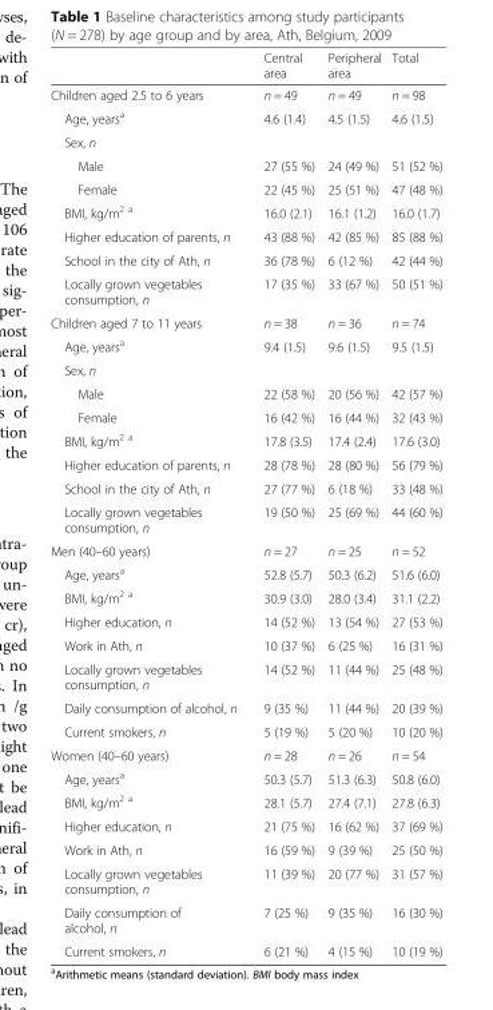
<table><thead><tr><td></td><td>Central area</td><td>Peripheral area</td><td>Total</td></tr></thead><tbody><tr><td>Children aged 2.5 to 6 years</td><td>n = 49</td><td>n = 49</td><td>n = 98</td></tr><tr><td>Age, years<sup>a</sup></td><td>4.6 (1.4)</td><td>4.5 (1.5)</td><td>4.6 (1.5)</td></tr><tr><td colspan="4">Sex, n</td></tr><tr><td>Male</td><td>27 (55 %)</td><td>24 (49 %)</td><td>51 (52 %)</td></tr><tr><td>Female</td><td>22 (45 %)</td><td>25 (51 %)</td><td>47 (48 %)</td></tr><tr><td>BMI, kg/m<sup>2 a</sup></td><td>16.0 (2.1)</td><td>16.1 (1.2)</td><td>16.0 (1.7)</td></tr><tr><td>Higher education of parents, n</td><td>43 (88 %)</td><td>42 (85 %)</td><td>85 (88 %)</td></tr><tr><td>School in the city of Ath, n</td><td>36 (78 %)</td><td>6 (12 %)</td><td>42 (44 %)</td></tr><tr><td>Locally grown vegetables consumption, n</td><td>17 (35 %)</td><td>33 (67 %)</td><td>50 (51 %)</td></tr><tr><td>Children aged 7 to 11 years</td><td>n = 38</td><td>n = 36</td><td>n = 74</td></tr><tr><td>Age, years<sup>a</sup></td><td>9.4 (1.5)</td><td>9.6 (1.5)</td><td>9.5 (1.5)</td></tr><tr><td colspan="4">Sex, n</td></tr><tr><td>Male</td><td>22 (58 %)</td><td>20 (56 %)</td><td>42 (57 %)</td></tr><tr><td>Female</td><td>16 (42 %)</td><td>16 (44 %)</td><td>32 (43 %)</td></tr><tr><td>BMI, kg/m<sup>2 a</sup></td><td>17.8 (3.5)</td><td>17.4 (2.4)</td><td>17.6 (3.0)</td></tr><tr><td>Higher education of parents, n</td><td>28 (78 %)</td><td>28 (80 %)</td><td>56 (79 %)</td></tr><tr><td>School in the city of Ath, n</td><td>27 (77 %)</td><td>6 (18 %)</td><td>33 (48 %)</td></tr><tr><td>Locally grown vegetables consumption, n</td><td>19 (50 %)</td><td>25 (69 %)</td><td>44 (60 %)</td></tr><tr><td>Men (40–60 years)</td><td>n = 27</td><td>n = 25</td><td>n = 52</td></tr><tr><td>Age, years<sup>a</sup></td><td>52.8 (5.7)</td><td>50.3 (6.2)</td><td>51.6 (6.0)</td></tr><tr><td>BMI, kg/m<sup>2 a</sup></td><td>30.9 (3.0)</td><td>28.0 (3.4)</td><td>31.1 (2.2)</td></tr><tr><td>Higher education, n</td><td>14 (52 %)</td><td>13 (54 %)</td><td>27 (53 %)</td></tr><tr><td>Work in Ath, n</td><td>10 (37 %)</td><td>6 (25 %)</td><td>16 (31 %)</td></tr><tr><td>Locally grown vegetables consumption, n</td><td>14 (52 %)</td><td>11 (44 %)</td><td>25 (48 %)</td></tr><tr><td>Daily consumption of alcohol, n</td><td>9 (35 %)</td><td>11 (44 %)</td><td>20 (39 %)</td></tr><tr><td>Current smokers, n</td><td>5 (19 %)</td><td>5 (20 %)</td><td>10 (20 %)</td></tr><tr><td>Women (40–60 years)</td><td>n = 28</td><td>n = 26</td><td>n = 54</td></tr><tr><td>Age, years<sup>a</sup></td><td>50.3 (5.7)</td><td>51.3 (6.3)</td><td>50.8 (6.0)</td></tr><tr><td>BMI, kg/m<sup>2 a</sup></td><td>28.1 (5.7)</td><td>27.4 (7.1)</td><td>27.8 (6.3)</td></tr><tr><td>Higher education, n</td><td>21 (75 %)</td><td>16 (62 %)</td><td>37 (69 %)</td></tr><tr><td>Work in Ath, n</td><td>16 (59 %)</td><td>9 (39 %)</td><td>25 (50 %)</td></tr><tr><td>Locally grown vegetables consumption, n</td><td>11 (39 %)</td><td>20 (77 %)</td><td>31 (57 %)</td></tr><tr><td>Daily consumption of alcohol, n</td><td>7 (25 %)</td><td>9 (35 %)</td><td>16 (30 %)</td></tr><tr><td>Current smokers, n</td><td>6 (21 %)</td><td>4 (15 %)</td><td>10 (19 %)</td></tr></tbody></table>